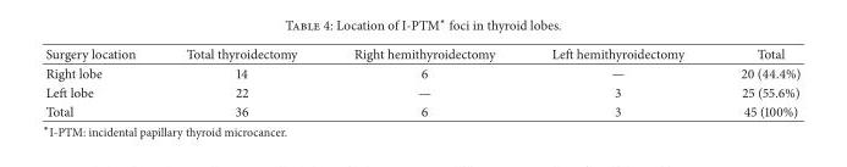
<table><thead><tr><td>Surgery location</td><td>Total thyroidectomy</td><td>Right hemithyroidectomy</td><td>Left hemithyroidectomy</td><td>Total</td></tr></thead><tbody><tr><td>Right lobe</td><td>14</td><td>6</td><td>—</td><td>20 (44.4%)</td></tr><tr><td>Left lobe</td><td>22</td><td>—</td><td>3</td><td>25 (55.6%)</td></tr><tr><td>Total</td><td>36</td><td>6</td><td>3</td><td>45 (100%)</td></tr></tbody></table>